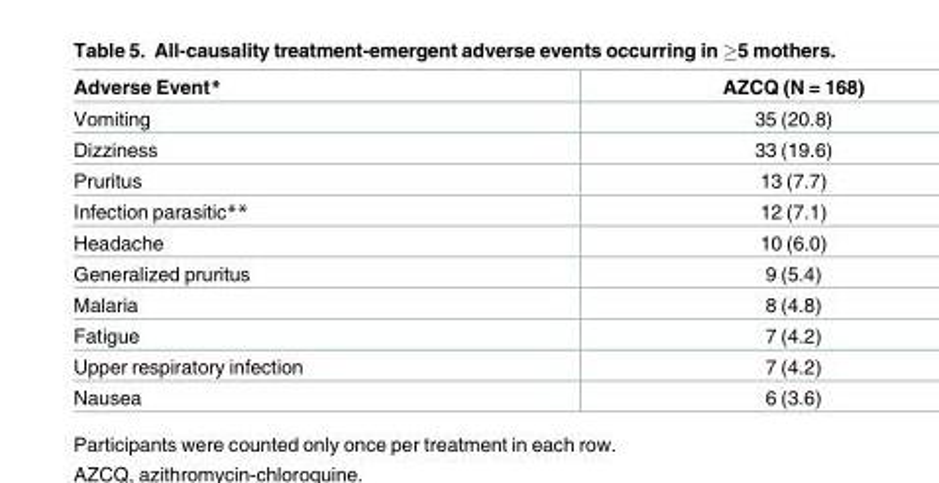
<table><thead><tr><td>Adverse Event*</td><td>AZCQ (N = 168)</td></tr></thead><tbody><tr><td>Vomiting</td><td>35 (20.8)</td></tr><tr><td>Dizziness</td><td>33 (19.6)</td></tr><tr><td>Pruritus</td><td>13 (7.7)</td></tr><tr><td>Infection parasitic**</td><td>12 (7.1)</td></tr><tr><td>Headache</td><td>10 (6.0)</td></tr><tr><td>Generalized pruritus</td><td>9 (5.4)</td></tr><tr><td>Malaria</td><td>8 (4.8)</td></tr><tr><td>Fatigue</td><td>7 (4.2)</td></tr><tr><td>Upper respiratory infection</td><td>7 (4.2)</td></tr><tr><td>Nausea</td><td>6 (3.6)</td></tr></tbody></table>